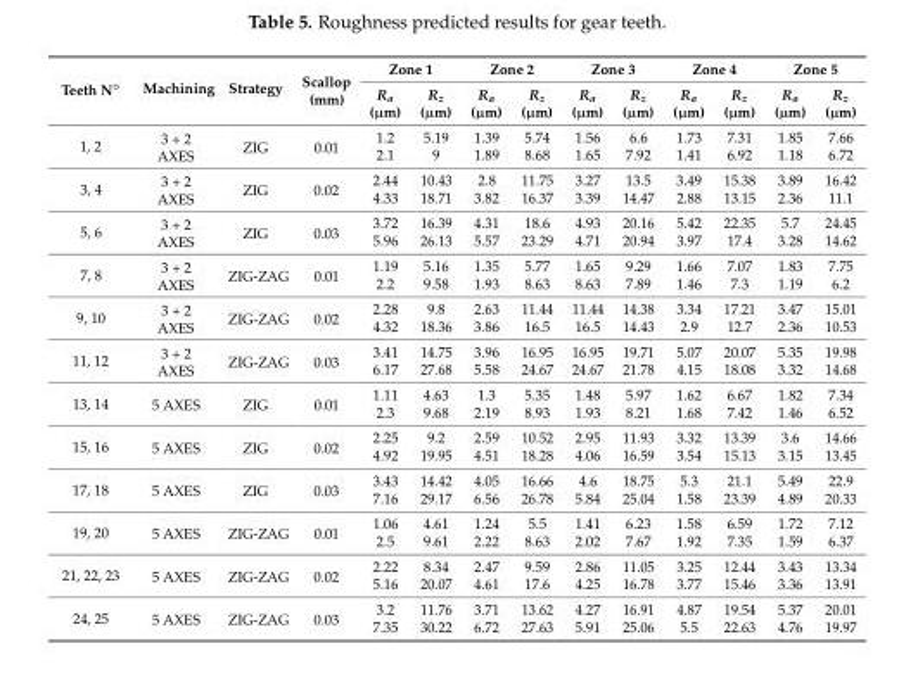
<table><thead><tr><td rowspan="2">Teeth N◦</td><td rowspan="2">Machining</td><td rowspan="2">Strategy</td><td rowspan="2">Scallop (mm)</td><td colspan="2">Zone 1</td><td colspan="2">Zone 2</td><td colspan="2">Zone 3</td><td colspan="2">Zone 4</td><td colspan="2">Zone 5</td></tr><tr><td>R<sub>a</sub> (µm)</td><td>R<sub>z</sub> (µm)</td><td>R<sub>a</sub> (µm)</td><td>R<sub>z</sub> (µm)</td><td>R<sub>a</sub> (µm)</td><td>R<sub>z</sub> (µm)</td><td>R<sub>a</sub> (µm)</td><td>R<sub>z</sub> (µm)</td><td>R<sub>a</sub> (µm)</td><td>R<sub>z</sub> (µm)</td></tr></thead><tbody><tr><td rowspan="2">1, 2</td><td rowspan="2">3 + 2 AXES</td><td rowspan="2">ZIG</td><td rowspan="2">0.01</td><td>1.2</td><td>5.19</td><td>1.39</td><td>5.74</td><td>1.56</td><td>6.6</td><td>1.73</td><td>7.31</td><td>1.85</td><td>7.66</td></tr><tr><td>2.1</td><td>9</td><td>1.89</td><td>8.68</td><td>1.65</td><td>7.92</td><td>1.41</td><td>6.92</td><td>1.18</td><td>6.72</td></tr><tr><td rowspan="2">3, 4</td><td rowspan="2">3 + 2 AXES</td><td rowspan="2">ZIG</td><td rowspan="2">0.02</td><td>2.44</td><td>10.43</td><td>2.8</td><td>11.75</td><td>3.27</td><td>13.5</td><td>3.49</td><td>15.38</td><td>3.89</td><td>16.42</td></tr><tr><td>4.33</td><td>18.71</td><td>3.82</td><td>16.37</td><td>3.39</td><td>14.47</td><td>2.88</td><td>13.15</td><td>2.36</td><td>11.1</td></tr><tr><td rowspan="2">5, 6</td><td rowspan="2">3 + 2 AXES</td><td rowspan="2">ZIG</td><td rowspan="2">0.03</td><td>3.72</td><td>16.39</td><td>4.31</td><td>18.6</td><td>4.93</td><td>20.16</td><td>5.42</td><td>22.35</td><td>5.7</td><td>24.45</td></tr><tr><td>5.96</td><td>26.13</td><td>5.57</td><td>23.29</td><td>4.71</td><td>20.94</td><td>3.97</td><td>17.4</td><td>3.28</td><td>14.62</td></tr><tr><td rowspan="2">7, 8</td><td rowspan="2">3 + 2 AXES</td><td rowspan="2">ZIG-ZAG</td><td rowspan="2">0.01</td><td>1.19</td><td>5.16</td><td>1.35</td><td>5.77</td><td>1.65</td><td>9.29</td><td>1.66</td><td>7.07</td><td>1.83</td><td>7.75</td></tr><tr><td>2.2</td><td>9.58</td><td>1.93</td><td>8.63</td><td>8.63</td><td>7.89</td><td>1.46</td><td>7.3</td><td>1.19</td><td>6.2</td></tr><tr><td rowspan="2">9, 10</td><td rowspan="2">3 + 2 AXES</td><td rowspan="2">ZIG-ZAG</td><td rowspan="2">0.02</td><td>2.28</td><td>9.8</td><td>2.63</td><td>11.44</td><td>11.44</td><td>14.38</td><td>3.34</td><td>17.21</td><td>3.47</td><td>15.01</td></tr><tr><td>4.32</td><td>18.36</td><td>3.86</td><td>16.5</td><td>16.5</td><td>14.43</td><td>2.9</td><td>12.7</td><td>2.36</td><td>10.53</td></tr><tr><td rowspan="2">11, 12</td><td rowspan="2">3 + 2 AXES</td><td rowspan="2">ZIG-ZAG</td><td rowspan="2">0.03</td><td>3.41</td><td>14.75</td><td>3.96</td><td>16.95</td><td>16.95</td><td>19.71</td><td>5.07</td><td>20.07</td><td>5.35</td><td>19.98</td></tr><tr><td>6.17</td><td>27.68</td><td>5.58</td><td>24.67</td><td>24.67</td><td>21.78</td><td>4.15</td><td>18.08</td><td>3.32</td><td>14.68</td></tr><tr><td rowspan="2">13, 14</td><td rowspan="2">5 AXES</td><td rowspan="2">ZIG</td><td rowspan="2">0.01</td><td>1.11</td><td>4.63</td><td>1.3</td><td>5.35</td><td>1.48</td><td>5.97</td><td>1.62</td><td>6.67</td><td>1.82</td><td>7.34</td></tr><tr><td>2.3</td><td>9.68</td><td>2.19</td><td>8.93</td><td>1.93</td><td>8.21</td><td>1.68</td><td>7.42</td><td>1.46</td><td>6.52</td></tr><tr><td rowspan="2">15, 16</td><td rowspan="2">5 AXES</td><td rowspan="2">ZIG</td><td rowspan="2">0.02</td><td>2.25</td><td>9.2</td><td>2.59</td><td>10.52</td><td>2.95</td><td>11.93</td><td>3.32</td><td>13.39</td><td>3.6</td><td>14.66</td></tr><tr><td>4.92</td><td>19.95</td><td>4.51</td><td>18.28</td><td>4.06</td><td>16.59</td><td>3.54</td><td>15.13</td><td>3.15</td><td>13.45</td></tr><tr><td rowspan="2">17, 18</td><td rowspan="2">5 AXES</td><td rowspan="2">ZIG</td><td rowspan="2">0.03</td><td>3.43</td><td>14.42</td><td>4.05</td><td>16.66</td><td>4.6</td><td>18.75</td><td>5.3</td><td>21.1</td><td>5.49</td><td>22.9</td></tr><tr><td>7.16</td><td>29.17</td><td>6.56</td><td>26.78</td><td>5.84</td><td>25.04</td><td>1.58</td><td>23.39</td><td>4.89</td><td>20.33</td></tr><tr><td rowspan="2">19, 20</td><td rowspan="2">5 AXES</td><td rowspan="2">ZIG-ZAG</td><td rowspan="2">0.01</td><td>1.06</td><td>4.61</td><td>1.24</td><td>5.5</td><td>1.41</td><td>6.23</td><td>1.58</td><td>6.59</td><td>1.72</td><td>7.12</td></tr><tr><td>2.5</td><td>9.61</td><td>2.22</td><td>8.63</td><td>2.02</td><td>7.67</td><td>1.92</td><td>7.35</td><td>1.59</td><td>6.37</td></tr><tr><td rowspan="2">21, 22, 23</td><td rowspan="2">5 AXES</td><td rowspan="2">ZIG-ZAG</td><td rowspan="2">0.02</td><td>2.22</td><td>8.34</td><td>2.47</td><td>9.59</td><td>2.86</td><td>11.05</td><td>3.25</td><td>12.44</td><td>3.43</td><td>13.34</td></tr><tr><td>5.16</td><td>20.07</td><td>4.61</td><td>17.6</td><td>4.25</td><td>16.78</td><td>3.77</td><td>15.46</td><td>3.36</td><td>13.91</td></tr><tr><td rowspan="2">24, 25</td><td rowspan="2">5 AXES</td><td rowspan="2">ZIG-ZAG</td><td rowspan="2">0.03</td><td>3.2</td><td>11.76</td><td>3.71</td><td>13.62</td><td>4.27</td><td>16.91</td><td>4.87</td><td>19.54</td><td>5.37</td><td>20.01</td></tr><tr><td>7.35</td><td>30.22</td><td>6.72</td><td>27.63</td><td>5.91</td><td>25.06</td><td>5.5</td><td>22.63</td><td>4.76</td><td>19.97</td></tr></tbody></table>